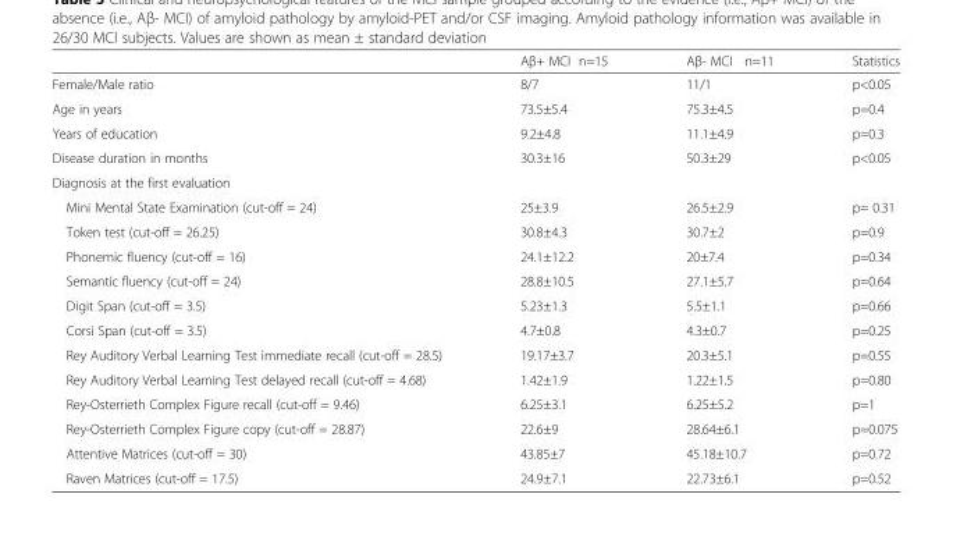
<table><thead><tr><td></td><td>Aβ+ MCI n=15</td><td>Aβ- MCI n=11</td><td>Statistics</td></tr></thead><tbody><tr><td>Female/Male ratio</td><td>8/7</td><td>11/1</td><td>p&lt;0.05</td></tr><tr><td>Age in years</td><td>73.5±5.4</td><td>75.3±4.5</td><td>p=0.4</td></tr><tr><td>Years of education</td><td>9.2±4.8</td><td>11.1±4.9</td><td>p=0.3</td></tr><tr><td>Disease duration in months</td><td>30.3±16</td><td>50.3±29</td><td>p&lt;0.05</td></tr><tr><td colspan="4">Diagnosis at the first evaluation</td></tr><tr><td>Mini Mental State Examination (cut-off = 24)</td><td>25±3.9</td><td>26.5±2.9</td><td>p= 0.31</td></tr><tr><td>Token test (cut-off = 26.25)</td><td>30.8±4.3</td><td>30.7±2</td><td>p=0.9</td></tr><tr><td>Phonemic fluency (cut-off = 16)</td><td>24.1±12.2</td><td>20±7.4</td><td>p=0.34</td></tr><tr><td>Semantic fluency (cut-off = 24)</td><td>28.8±10.5</td><td>27.1±5.7</td><td>p=0.64</td></tr><tr><td>Digit Span (cut-off = 3.5)</td><td>5.23±1.3</td><td>5.5±1.1</td><td>p=0.66</td></tr><tr><td>Corsi Span (cut-off = 3.5)</td><td>4.7±0.8</td><td>4.3±0.7</td><td>p=0.25</td></tr><tr><td>Rey Auditory Verbal Learning Test immediate recall (cut-off = 28.5)</td><td>19.17±3.7</td><td>20.3±5.1</td><td>p=0.55</td></tr><tr><td>Rey Auditory Verbal Learning Test delayed recall (cut-off = 4.68)</td><td>1.42±1.9</td><td>1.22±1.5</td><td>p=0.80</td></tr><tr><td>Rey-Osterrieth Complex Figure recall (cut-off = 9.46)</td><td>6.25±3.1</td><td>6.25±5.2</td><td>p=1</td></tr><tr><td>Rey-Osterrieth Complex Figure copy (cut-off = 28.87)</td><td>22.6±9</td><td>28.64±6.1</td><td>p=0.075</td></tr><tr><td>Attentive Matrices (cut-off = 30)</td><td>43.85±7</td><td>45.18±10.7</td><td>p=0.72</td></tr><tr><td>Raven Matrices (cut-off = 17.5)</td><td>24.9±7.1</td><td>22.73±6.1</td><td>p=0.52</td></tr></tbody></table>